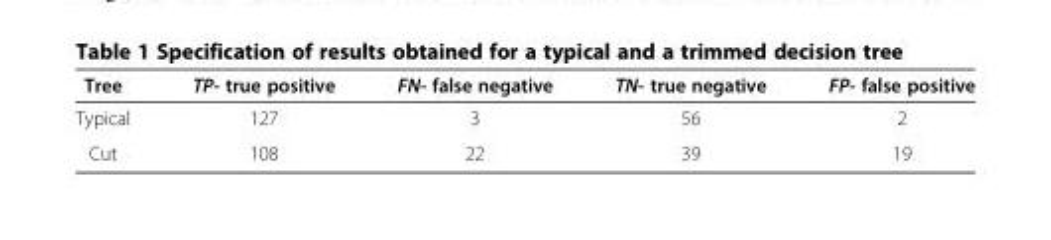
<table><thead><tr><td>Tree</td><td>TP- true positive</td><td>FN- false negative</td><td>TN- true negative</td><td>FP- false positive</td></tr></thead><tbody><tr><td>Typical</td><td>127</td><td>3</td><td>56</td><td>2</td></tr><tr><td>Cut</td><td>108</td><td>22</td><td>39</td><td>19</td></tr></tbody></table>